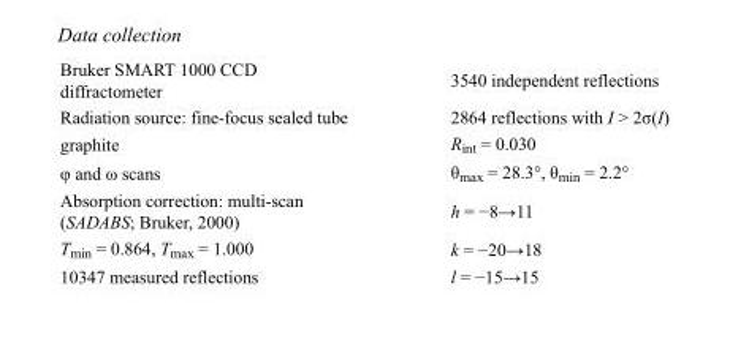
<table><tbody><tr><td>Bruker SMART 1000 CCD diffractometer</td><td>3540 independent reflections</td></tr><tr><td>Radiation source: fine-focus sealed tube</td><td>2864 reflections with I &gt; 2σ(I)</td></tr><tr><td>graphite</td><td>R<sub>int</sub> = 0.030</td></tr><tr><td>φ and ω scans</td><td>θ<sub>max</sub> = 28.3°, θ<sub>min</sub> = 2.2°</td></tr><tr><td>Absorption correction: multi-scan (SADABS; Bruker, 2000)</td><td>h = −8→11</td></tr><tr><td>T<sub>min</sub> = 0.864, T<sub>max</sub> = 1.000</td><td>k = −20→18</td></tr><tr><td>10347 measured reflections</td><td>l = −15→15</td></tr></tbody></table>